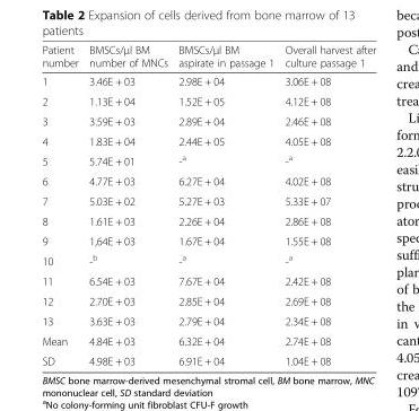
<table><thead><tr><td>Patient number</td><td>BMSCs/μl BM number of MNCs</td><td>BMSCs/μl BM aspirate in passage 1</td><td>Overall harvest after culture passage 1</td></tr></thead><tbody><tr><td>1</td><td>3.46E + 03</td><td>2.98E + 04</td><td>3.06E + 08</td></tr><tr><td>2</td><td>1.13E + 04</td><td>1.52E + 05</td><td>4.12E + 08</td></tr><tr><td>3</td><td>3.59E + 03</td><td>2.89E + 04</td><td>2.46E + 08</td></tr><tr><td>4</td><td>1.83E + 04</td><td>2.44E + 05</td><td>4.05E + 08</td></tr><tr><td>5</td><td>5.74E + 01</td><td>-<sup>a</sup></td><td>-<sup>a</sup></td></tr><tr><td>6</td><td>4.77E + 03</td><td>6.27E + 04</td><td>4.02E + 08</td></tr><tr><td>7</td><td>5.03E + 02</td><td>5.27E + 03</td><td>5.33E + 07</td></tr><tr><td>8</td><td>1.61E + 03</td><td>2.26E + 04</td><td>2.86E + 08</td></tr><tr><td>9</td><td>1,64E + 03</td><td>1.67E + 04</td><td>1.55E + 08</td></tr><tr><td>10</td><td>-<sup>b</sup></td><td>-<sup>a</sup></td><td>-<sup>a</sup></td></tr><tr><td>11</td><td>6.54E + 03</td><td>7.67E + 04</td><td>2.42E + 08</td></tr><tr><td>12</td><td>2.70E + 03</td><td>2.85E + 04</td><td>2.69E + 08</td></tr><tr><td>13</td><td>3.63E + 03</td><td>2.79E + 04</td><td>2.34E + 08</td></tr><tr><td>Mean</td><td>4.84E + 03</td><td>6.32E + 04</td><td>2.74E + 08</td></tr><tr><td>SD</td><td>4.98E + 03</td><td>6.91E + 04</td><td>1.04E + 08</td></tr></tbody></table>